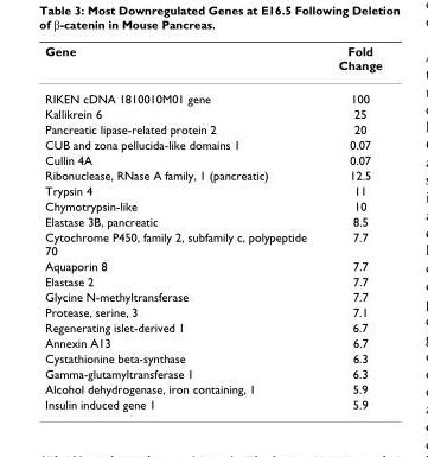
<table><thead><tr><td>Gene</td><td>Fold Change</td></tr></thead><tbody><tr><td>RIKEN cDNA 1810010M01 gene</td><td>100</td></tr><tr><td>Kallikrein 6</td><td>25</td></tr><tr><td>Pancreatic lipase-related protein 2</td><td>20</td></tr><tr><td>CUB and zona pellucida-like domains 1</td><td>0.07</td></tr><tr><td>Cullin 4A</td><td>0.07</td></tr><tr><td>Ribonuclease, RNase A family, 1 (pancreatic)</td><td>12.5</td></tr><tr><td>Trypsin 4</td><td>11</td></tr><tr><td>Chymotrypsin-like</td><td>10</td></tr><tr><td>Elastase 3B, pancreatic</td><td>8.5</td></tr><tr><td>Cytochrome P450, family 2, subfamily c, polypeptide 70</td><td>7.7</td></tr><tr><td>Aquaporin 8</td><td>7.7</td></tr><tr><td>Elastase 2</td><td>7.7</td></tr><tr><td>Glycine N-methyltransferase</td><td>7.7</td></tr><tr><td>Protease, serine, 3</td><td>7.1</td></tr><tr><td>Regenerating islet-derived 1</td><td>6.7</td></tr><tr><td>Annexin A13</td><td>6.7</td></tr><tr><td>Cystathionine beta-synthase</td><td>6.3</td></tr><tr><td>Gamma-glutamyltransferase 1</td><td>6.3</td></tr><tr><td>Alcohol dehydrogenase, iron containing, 1</td><td>5.9</td></tr><tr><td>Insulin induced gene 1</td><td>5.9</td></tr></tbody></table>